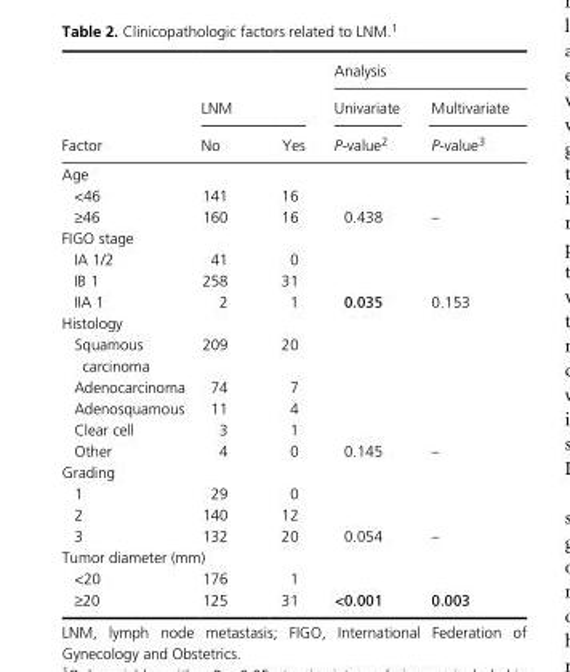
<table><thead><tr><td rowspan="3">Factor</td><td></td><td></td><td colspan="2">Analysis</td></tr><tr><td colspan="2">LNM</td><td rowspan="2">Univariate P- value2</td><td rowspan="2">Multivariate P- value3</td></tr><tr><td>No</td><td>Yes</td></tr></thead><tbody><tr><td colspan="5">Age</td></tr><tr><td>&lt;46</td><td>141</td><td>16</td><td></td><td></td></tr><tr><td>≥46</td><td>160</td><td>16</td><td>0.438</td><td>–</td></tr><tr><td colspan="5">FIGO stage</td></tr><tr><td>IA 1/2</td><td>41</td><td>0</td><td></td><td></td></tr><tr><td>IB 1</td><td>258</td><td>31</td><td></td><td></td></tr><tr><td>IIA 1</td><td>2</td><td>1</td><td>0.035</td><td>0.153</td></tr><tr><td colspan="5">Histology</td></tr><tr><td>Squamous carcinoma</td><td>209</td><td>20</td><td></td><td></td></tr><tr><td>Adenocarcinoma</td><td>74</td><td>7</td><td></td><td></td></tr><tr><td>Adenosquamous</td><td>11</td><td>4</td><td></td><td></td></tr><tr><td>Clear cell</td><td>3</td><td>1</td><td></td><td></td></tr><tr><td>Other</td><td>4</td><td>0</td><td>0.145</td><td>–</td></tr><tr><td colspan="5">Grading</td></tr><tr><td>1</td><td>29</td><td>0</td><td></td><td></td></tr><tr><td>2</td><td>140</td><td>12</td><td></td><td></td></tr><tr><td>3</td><td>132</td><td>20</td><td>0.054</td><td>–</td></tr><tr><td colspan="5">Tumor diameter (mm)</td></tr><tr><td>&lt;20</td><td>176</td><td>1</td><td></td><td></td></tr><tr><td>≥20</td><td>125</td><td>31</td><td>&lt;0.001</td><td>0.003</td></tr></tbody></table>